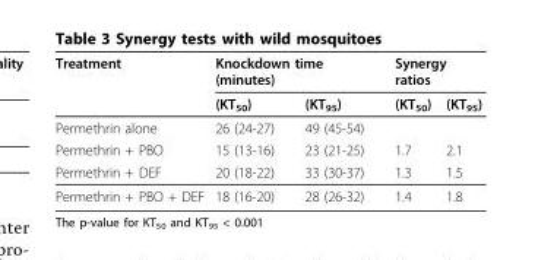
<table><thead><tr><td rowspan="2">Treatment</td><td colspan="2">Knockdown time (minutes)</td><td colspan="2">Synergy ratios</td></tr><tr><td>(KT<sub>50</sub>)</td><td>(KT<sub>95</sub>)</td><td>(KT<sub>50</sub>)</td><td>(KT<sub>95</sub>)</td></tr></thead><tbody><tr><td>Permethrin alone</td><td>26 (24-27)</td><td>49 (45-54)</td><td></td><td></td></tr><tr><td>Permethrin + PBO</td><td>15 (13-16)</td><td>23 (21-25)</td><td>1.7</td><td>2.1</td></tr><tr><td>Permethrin + DEF</td><td>20 (18-22)</td><td>33 (30-37)</td><td>1.3</td><td>1.5</td></tr><tr><td>Permethrin + PBO + DEF</td><td>18 (16-20)</td><td>28 (26-32)</td><td>1.4</td><td>1.8</td></tr></tbody></table>